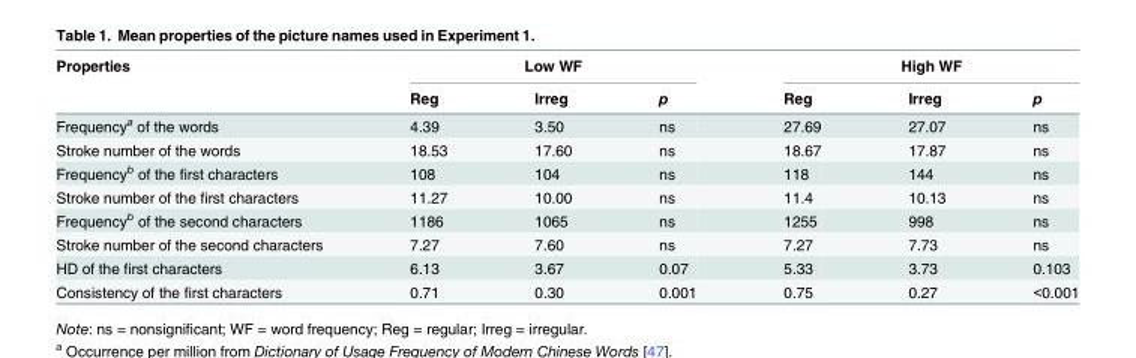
<table><thead><tr><td rowspan="2">Properties</td><td colspan="3">Low WF</td><td colspan="3">High WF</td></tr><tr><td>Reg</td><td>Irreg</td><td>p</td><td>Reg</td><td>Irreg</td><td>p</td></tr></thead><tbody><tr><td>Frequency<sup>a</sup> of the words</td><td>4.39</td><td>3.50</td><td>ns</td><td>27.69</td><td>27.07</td><td>ns</td></tr><tr><td>Stroke number of the words</td><td>18.53</td><td>17.60</td><td>ns</td><td>18.67</td><td>17.87</td><td>ns</td></tr><tr><td>Frequency<sup>b</sup> of the first characters</td><td>108</td><td>104</td><td>ns</td><td>118</td><td>144</td><td>ns</td></tr><tr><td>Stroke number of the first characters</td><td>11.27</td><td>10.00</td><td>ns</td><td>11.4</td><td>10.13</td><td>ns</td></tr><tr><td>Frequency<sup>b</sup> of the second characters</td><td>1186</td><td>1065</td><td>ns</td><td>1255</td><td>998</td><td>ns</td></tr><tr><td>Stroke number of the second characters</td><td>7.27</td><td>7.60</td><td>ns</td><td>7.27</td><td>7.73</td><td>ns</td></tr><tr><td>HD of the first characters</td><td>6.13</td><td>3.67</td><td>0.07</td><td>5.33</td><td>3.73</td><td>0.103</td></tr><tr><td>Consistency of the first characters</td><td>0.71</td><td>0.30</td><td>0.001</td><td>0.75</td><td>0.27</td><td>&lt;0.001</td></tr></tbody></table>